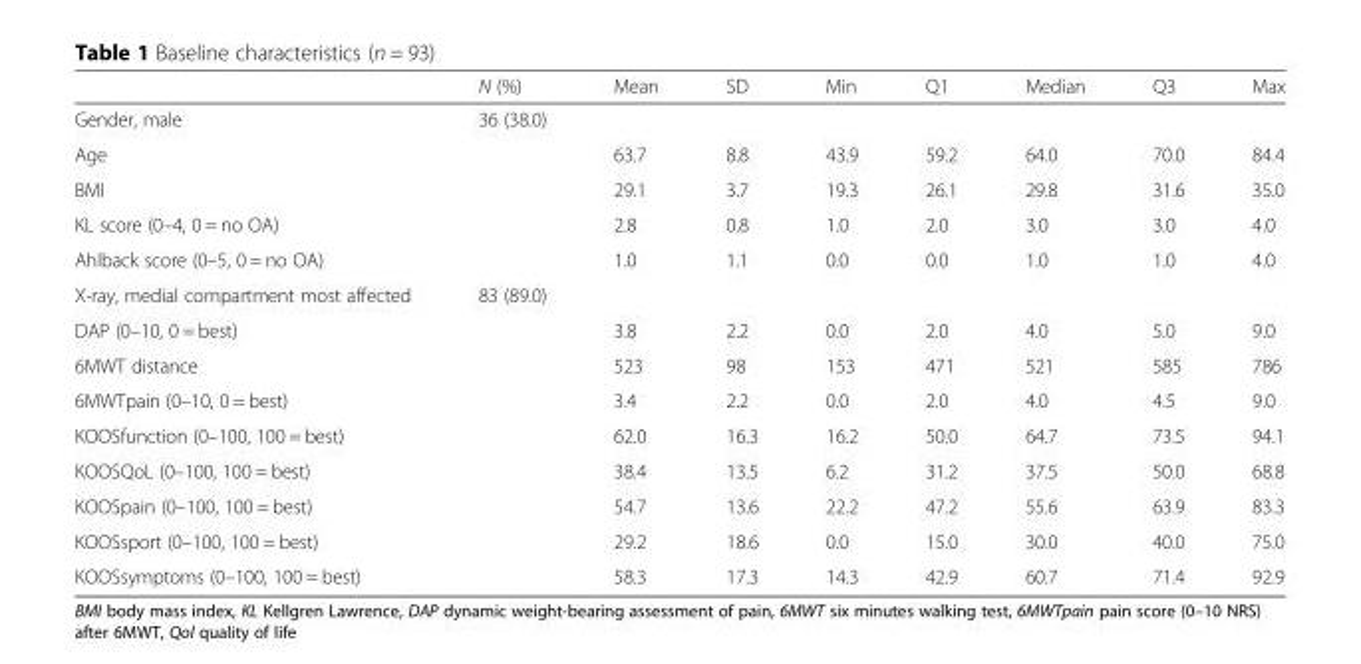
<table><thead><tr><td></td><td>N (%)</td><td>Mean</td><td>SD</td><td>Min</td><td>Q1</td><td>Median</td><td>Q3</td><td>Max</td></tr></thead><tbody><tr><td>Gender, male</td><td>36 (38.0)</td><td></td><td></td><td></td><td></td><td></td><td></td><td></td></tr><tr><td>Age</td><td></td><td>63.7</td><td>8.8</td><td>43.9</td><td>59.2</td><td>64.0</td><td>70.0</td><td>84.4</td></tr><tr><td>BMI</td><td></td><td>29.1</td><td>3.7</td><td>19.3</td><td>26.1</td><td>29.8</td><td>31.6</td><td>35.0</td></tr><tr><td>KL score (0–4, 0 = no OA)</td><td></td><td>2.8</td><td>0.8</td><td>1.0</td><td>2.0</td><td>3.0</td><td>3.0</td><td>4.0</td></tr><tr><td>Ahlback score (0–5, 0 = no OA)</td><td></td><td>1.0</td><td>1.1</td><td>0.0</td><td>0.0</td><td>1.0</td><td>1.0</td><td>4.0</td></tr><tr><td>X-ray, medial compartment most affected</td><td>83 (89.0)</td><td></td><td></td><td></td><td></td><td></td><td></td><td></td></tr><tr><td>DAP (0–10, 0 = best)</td><td></td><td>3.8</td><td>2.2</td><td>0.0</td><td>2.0</td><td>4.0</td><td>5.0</td><td>9.0</td></tr><tr><td>6MWT distance</td><td></td><td>523</td><td>98</td><td>153</td><td>471</td><td>521</td><td>585</td><td>786</td></tr><tr><td>6MWTpain (0–10, 0 = best)</td><td></td><td>3.4</td><td>2.2</td><td>0.0</td><td>2.0</td><td>4.0</td><td>4.5</td><td>9.0</td></tr><tr><td>KOOSfunction (0–100, 100 = best)</td><td></td><td>62.0</td><td>16.3</td><td>16.2</td><td>50.0</td><td>64.7</td><td>73.5</td><td>94.1</td></tr><tr><td>KOOSQoL (0–100, 100 = best)</td><td></td><td>38.4</td><td>13.5</td><td>6.2</td><td>31.2</td><td>37.5</td><td>50.0</td><td>68.8</td></tr><tr><td>KOOSpain (0–100, 100 = best)</td><td></td><td>54.7</td><td>13.6</td><td>22.2</td><td>47.2</td><td>55.6</td><td>63.9</td><td>83.3</td></tr><tr><td>KOOSsport (0–100, 100 = best)</td><td></td><td>29.2</td><td>18.6</td><td>0.0</td><td>15.0</td><td>30.0</td><td>40.0</td><td>75.0</td></tr><tr><td>KOOSsymptoms (0–100, 100 = best)</td><td></td><td>58.3</td><td>17.3</td><td>14.3</td><td>42.9</td><td>60.7</td><td>71.4</td><td>92.9</td></tr></tbody></table>